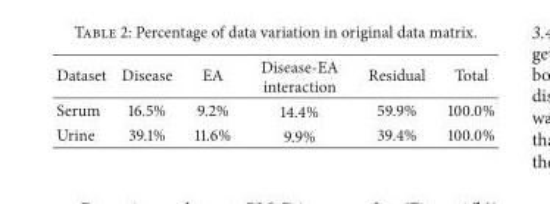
<table><thead><tr><td>Dataset</td><td>Disease</td><td>EA</td><td>Disease-EA interaction</td><td>Residual</td><td>Total</td></tr></thead><tbody><tr><td>Serum</td><td>16.5%</td><td>9.2%</td><td>14.4%</td><td>59.9%</td><td>100.0%</td></tr><tr><td>Urine</td><td>39.1%</td><td>11.6%</td><td>9.9%</td><td>39.4%</td><td>100.0%</td></tr></tbody></table>